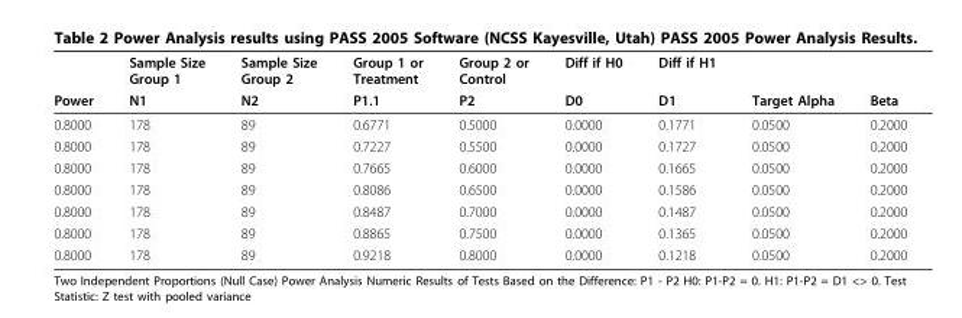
<table><thead><tr><td rowspan="2">Power</td><td rowspan="2">Sample Size Group 1 N1</td><td rowspan="2">Sample Size Group 2 N2</td><td rowspan="2">Group 1 or Treatment P1.1</td><td rowspan="2">Group 2 or Control P2</td><td rowspan="2">Diff if H0 D0</td><td rowspan="2">Diff if H1 D1</td><td rowspan="2">Target Alpha</td><td rowspan="2">Beta</td></tr><tr></tr></thead><tbody><tr><td>0.8000</td><td>178</td><td>89</td><td>0.6771</td><td>0.5000</td><td>0.0000</td><td>0.1771</td><td>0.0500</td><td>0.2000</td></tr><tr><td>0.8000</td><td>178</td><td>89</td><td>0.7227</td><td>0.5500</td><td>0.0000</td><td>0.1727</td><td>0.0500</td><td>0.2000</td></tr><tr><td>0.8000</td><td>178</td><td>89</td><td>0.7665</td><td>0.6000</td><td>0.0000</td><td>0.1665</td><td>0.0500</td><td>0.2000</td></tr><tr><td>0.8000</td><td>178</td><td>89</td><td>0.8086</td><td>0.6500</td><td>0.0000</td><td>0.1586</td><td>0.0500</td><td>0.2000</td></tr><tr><td>0.8000</td><td>178</td><td>89</td><td>0.8487</td><td>0.7000</td><td>0.0000</td><td>0.1487</td><td>0.0500</td><td>0.2000</td></tr><tr><td>0.8000</td><td>178</td><td>89</td><td>0.8865</td><td>0.7500</td><td>0.0000</td><td>0.1365</td><td>0.0500</td><td>0.2000</td></tr><tr><td>0.8000</td><td>178</td><td>89</td><td>0.9218</td><td>0.8000</td><td>0.0000</td><td>0.1218</td><td>0.0500</td><td>0.2000</td></tr></tbody></table>